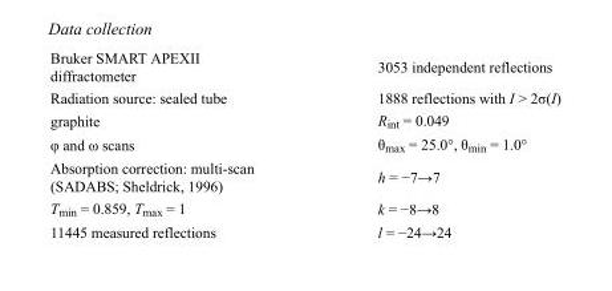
<table><tbody><tr><td>Bruker SMART APEXII diffractometer</td><td>3053 independent reflections</td></tr><tr><td>Radiation source: sealed tube</td><td>1888 reflections with I &gt; 2σ(I)</td></tr><tr><td>graphite</td><td>R<sub>int</sub> = 0.049</td></tr><tr><td>φ and ω scans</td><td>θ<sub>max</sub> = 25.0°, θ<sub>min</sub> = 1.0°</td></tr><tr><td>Absorption correction: multi-scan (SADABS; Sheldrick, 1996)</td><td>h = −7→7</td></tr><tr><td>T<sub>min</sub> = 0.859, T<sub>max</sub> = 1</td><td>k = −8→8</td></tr><tr><td>11445 measured reflections</td><td>l = −24→24</td></tr></tbody></table>